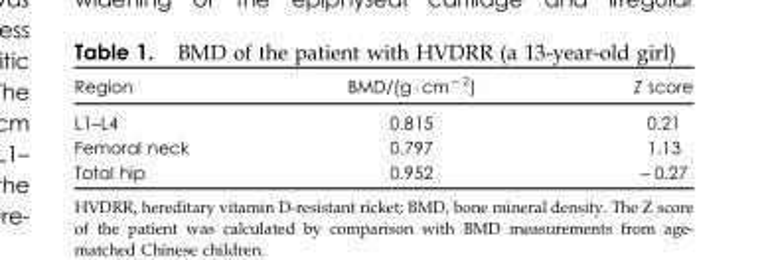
<table><thead><tr><td>Region</td><td>BMD/(g · cm <sup>− 2</sup>)</td><td>Z score</td></tr></thead><tbody><tr><td>L1–L4</td><td>0.815</td><td>0.21</td></tr><tr><td>Femoral neck</td><td>0.797</td><td>1.13</td></tr><tr><td>Total hip</td><td>0.952</td><td>− 0.27</td></tr></tbody></table>